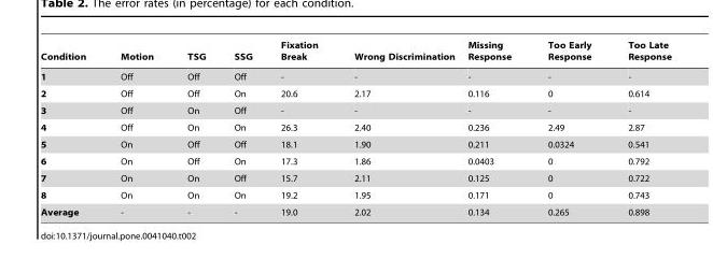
<table><thead><tr><td>Condition</td><td>Motion</td><td>TSG</td><td>SSG</td><td>Fixation Break</td><td>Wrong Discrimination</td><td>Missing Response</td><td>Too Early Response</td><td>Too Late Response</td></tr></thead><tbody><tr><td>1</td><td>Off</td><td>Off</td><td>Off</td><td>-</td><td>-</td><td>-</td><td>-</td><td>-</td></tr><tr><td>2</td><td>Off</td><td>Off</td><td>On</td><td>20.6</td><td>2.17</td><td>0.116</td><td>0</td><td>0.614</td></tr><tr><td>3</td><td>Off</td><td>On</td><td>Off</td><td>-</td><td>-</td><td>-</td><td>-</td><td>-</td></tr><tr><td>4</td><td>Off</td><td>On</td><td>On</td><td>26.3</td><td>2.40</td><td>0.236</td><td>2.49</td><td>2.87</td></tr><tr><td>5</td><td>On</td><td>Off</td><td>Off</td><td>18.1</td><td>1.90</td><td>0.211</td><td>0.0324</td><td>0.541</td></tr><tr><td>6</td><td>On</td><td>Off</td><td>On</td><td>17.3</td><td>1.86</td><td>0.0403</td><td>0</td><td>0.792</td></tr><tr><td>7</td><td>On</td><td>On</td><td>Off</td><td>15.7</td><td>2.11</td><td>0.125</td><td>0</td><td>0.722</td></tr><tr><td>8</td><td>On</td><td>On</td><td>On</td><td>19.2</td><td>1.95</td><td>0.171</td><td>0</td><td>0.743</td></tr><tr><td>Average</td><td>-</td><td>-</td><td>-</td><td>19.0</td><td>2.02</td><td>0.134</td><td>0.265</td><td>0.898</td></tr></tbody></table>